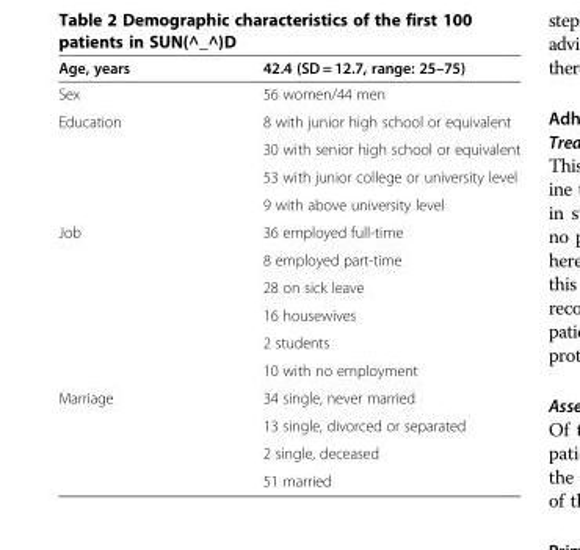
<table><thead><tr><td>Age, years</td><td>42.4 (SD = 12.7, range: 25–75)</td></tr></thead><tbody><tr><td>Sex</td><td>56 women/44 men</td></tr><tr><td rowspan="4">Education</td><td>8 with junior high school or equivalent</td></tr><tr><td>30 with senior high school or equivalent</td></tr><tr><td>53 with junior college or university level</td></tr><tr><td>9 with above university level</td></tr><tr><td rowspan="6">Job</td><td>36 employed full-time</td></tr><tr><td>8 employed part-time</td></tr><tr><td>28 on sick leave</td></tr><tr><td>16 housewives</td></tr><tr><td>2 students</td></tr><tr><td>10 with no employment</td></tr><tr><td rowspan="4">Marriage</td><td>34 single, never married</td></tr><tr><td>13 single, divorced or separated</td></tr><tr><td>2 single, deceased</td></tr><tr><td>51 married</td></tr></tbody></table>